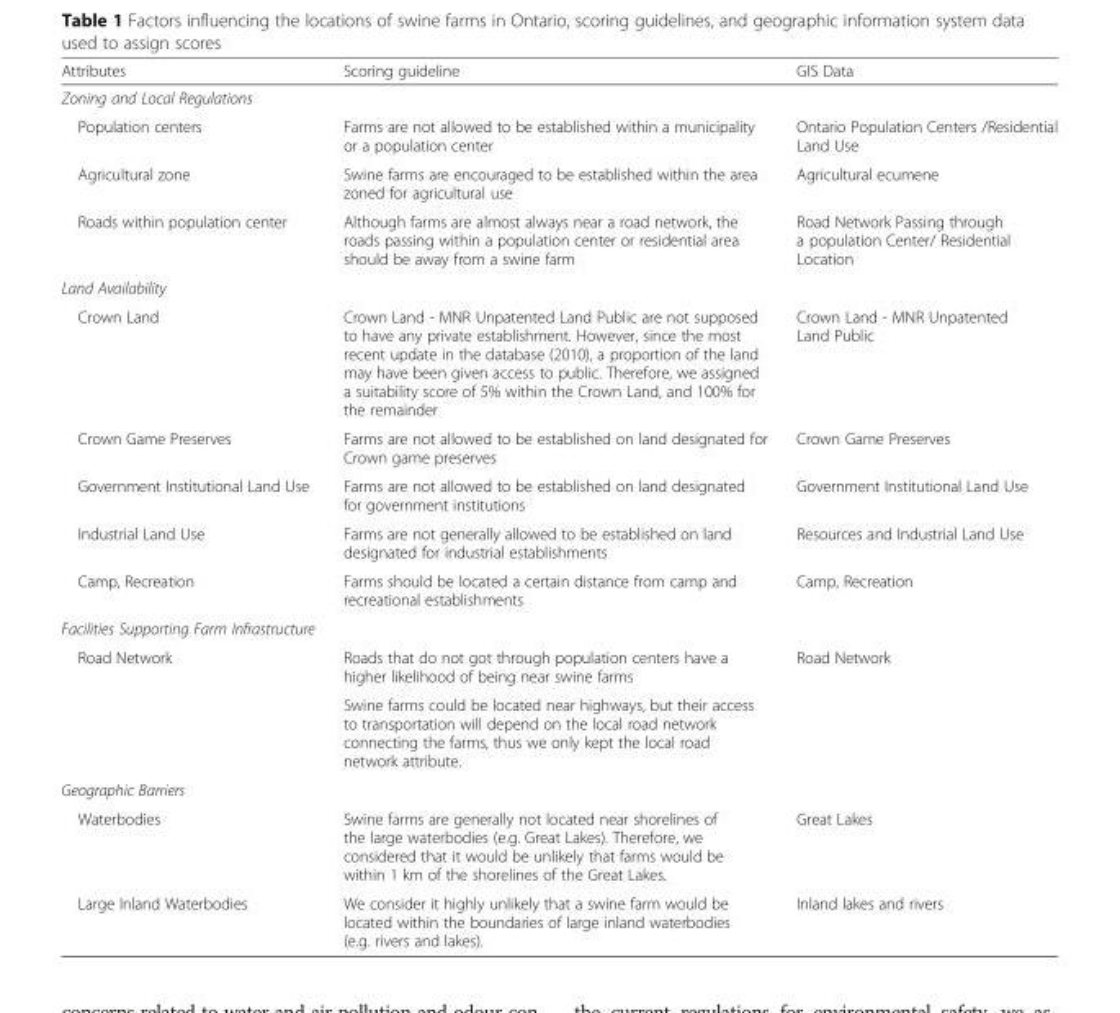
<table><thead><tr><td>Attributes</td><td>Scoring guideline</td><td>GIS Data</td></tr></thead><tbody><tr><td colspan="3">Zoning and Local Regulations</td></tr><tr><td>Population centers</td><td>Farms are not allowed to be established within a municipality or a population center</td><td>Ontario Population Centers /Residential Land Use</td></tr><tr><td>Agricultural zone</td><td>Swine farms are encouraged to be established within the area zoned for agricultural use</td><td>Agricultural ecumene</td></tr><tr><td>Roads within population center</td><td>Although farms are almost always near a road network, the roads passing within a population center or residential area should be away from a swine farm</td><td>Road Network Passing through a population Center/ Residential Location</td></tr><tr><td colspan="3">Land Availability</td></tr><tr><td>Crown Land</td><td>Crown Land - MNR Unpatented Land Public are not supposed to have any private establishment. However, since the most recent update in the database (2010), a proportion of the land may have been given access to public. Therefore, we assigned a suitability score of 5% within the Crown Land, and 100% for the remainder</td><td>Crown Land - MNR Unpatented Land Public</td></tr><tr><td>Crown Game Preserves</td><td>Farms are not allowed to be established on land designated for Crown game preserves</td><td>Crown Game Preserves</td></tr><tr><td>Government Institutional Land Use</td><td>Farms are not allowed to be established on land designated for government institutions</td><td>Government Institutional Land Use</td></tr><tr><td>Industrial Land Use</td><td>Farms are not generally allowed to be established on land designated for industrial establishments</td><td>Resources and Industrial Land Use</td></tr><tr><td>Camp, Recreation</td><td>Farms should be located a certain distance from camp and recreational establishments</td><td>Camp, Recreation</td></tr><tr><td colspan="3">Facilities Supporting Farm Infrastructure</td></tr><tr><td rowspan="2">Road Network</td><td>Roads that do not got through population centers have a higher likelihood of being near swine farms</td><td>Road Network</td></tr><tr><td>Swine farms could be located near highways, but their access to transportation will depend on the local road network connecting the farms, thus we only kept the local road network attribute.</td><td></td></tr><tr><td colspan="3">Geographic Barriers</td></tr><tr><td>Waterbodies</td><td>Swine farms are generally not located near shorelines of the large waterbodies (e.g. Great Lakes). Therefore, we considered that it would be unlikely that farms would be within 1 km of the shorelines of the Great Lakes.</td><td>Great Lakes</td></tr><tr><td>Large Inland Waterbodies</td><td>We consider it highly unlikely that a swine farm would be located within the boundaries of large inland waterbodies (e.g. rivers and lakes).</td><td>Inland lakes and rivers</td></tr></tbody></table>